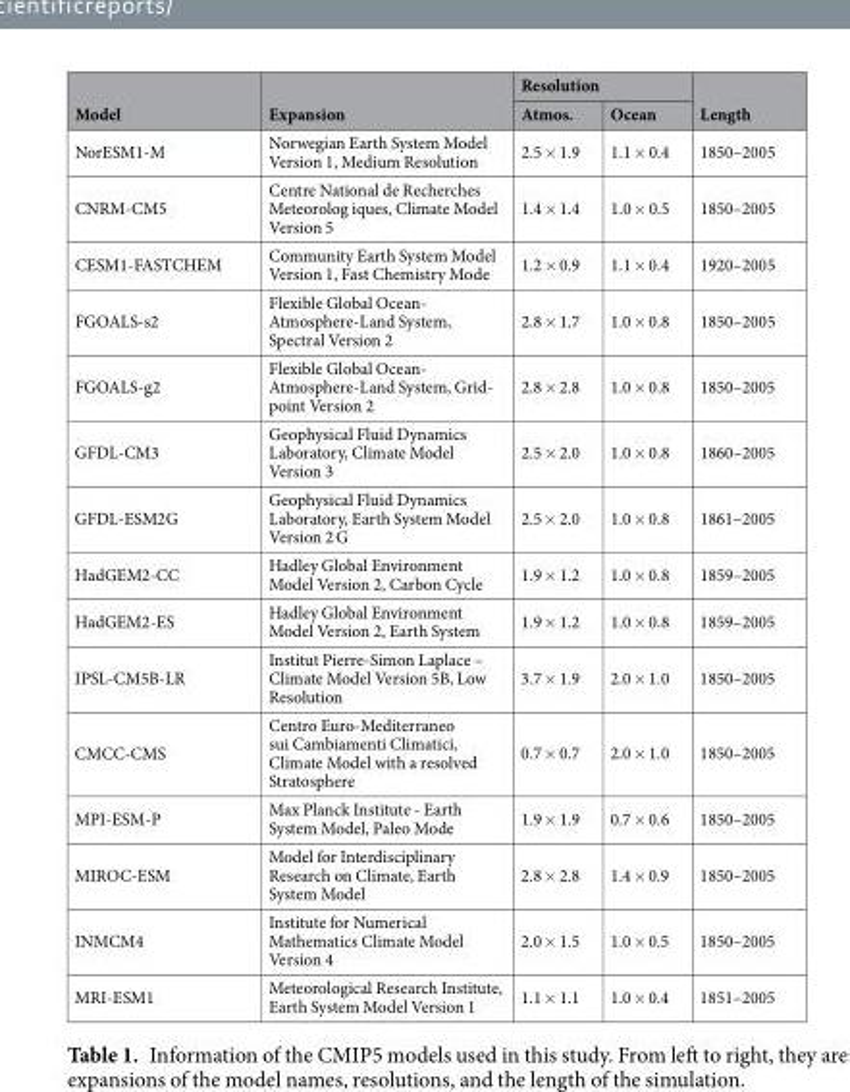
<table><thead><tr><td rowspan="2">Model</td><td rowspan="2">Expansion</td><td colspan="2">Resolution</td><td rowspan="2">Length</td></tr><tr><td>Atmos.</td><td>Ocean</td></tr></thead><tbody><tr><td>NorESM1-M</td><td>Norwegian Earth System Model Version 1, Medium Resolution</td><td>2.5 × 1.9</td><td>1.1 × 0.4</td><td>1850–2005</td></tr><tr><td>CNRM-CM5</td><td>Centre National de Recherches Meteorolog iques, Climate Model Version 5</td><td>1.4 × 1.4</td><td>1.0 × 0.5</td><td>1850–2005</td></tr><tr><td>CESM1-FASTCHEM</td><td>Community Earth System Model Version 1, Fast Chemistry Mode</td><td>1.2 × 0.9</td><td>1.1 × 0.4</td><td>1920–2005</td></tr><tr><td>FGOALS-s2</td><td>Flexible Global Ocean- Atmosphere-Land System, Spectral Version 2</td><td>2.8 × 1.7</td><td>1.0 × 0.8</td><td>1850–2005</td></tr><tr><td>FGOALS-g2</td><td>Flexible Global Ocean- Atmosphere-Land System, Grid- point Version 2</td><td>2.8 × 2.8</td><td>1.0 × 0.8</td><td>1850–2005</td></tr><tr><td>GFDL-CM3</td><td>Geophysical Fluid Dynamics Laboratory, Climate Model Version 3</td><td>2.5 × 2.0</td><td>1.0 × 0.8</td><td>1860–2005</td></tr><tr><td>GFDL-ESM2G</td><td>Geophysical Fluid Dynamics Laboratory, Earth System Model Version 2 G</td><td>2.5 × 2.0</td><td>1.0 × 0.8</td><td>1861–2005</td></tr><tr><td>HadGEM2-CC</td><td>Hadley Global Environment Model Version 2, Carbon Cycle</td><td>1.9 × 1.2</td><td>1.0 × 0.8</td><td>1859–2005</td></tr><tr><td>HadGEM2-ES</td><td>Hadley Global Environment Model Version 2, Earth System</td><td>1.9 × 1.2</td><td>1.0 × 0.8</td><td>1859–2005</td></tr><tr><td>IPSL-CM5B-LR</td><td>Institut Pierre-Simon Laplace – Climate Model Version 5B, Low Resolution</td><td>3.7 × 1.9</td><td>2.0 × 1.0</td><td>1850–2005</td></tr><tr><td>CMCC-CMS</td><td>Centro Euro-Mediterraneo sui Cambiamenti Climatici, Climate Model with a resolved Stratosphere</td><td>0.7 × 0.7</td><td>2.0 × 1.0</td><td>1850–2005</td></tr><tr><td>MPI-ESM-P</td><td>Max Planck Institute - Earth System Model, Paleo Mode</td><td>1.9 × 1.9</td><td>0.7 × 0.6</td><td>1850–2005</td></tr><tr><td>MIROC-ESM</td><td>Model for Interdisciplinary Research on Climate, Earth System Model</td><td>2.8 × 2.8</td><td>1.4 × 0.9</td><td>1850–2005</td></tr><tr><td>INMCM4</td><td>Institute for Numerical Mathematics Climate Model Version 4</td><td>2.0 × 1.5</td><td>1.0 × 0.5</td><td>1850–2005</td></tr><tr><td>MRI-ESM1</td><td>Meteorological Research Institute, Earth System Model Version 1</td><td>1.1 × 1.1</td><td>1.0 × 0.4</td><td>1851–2005</td></tr></tbody></table>